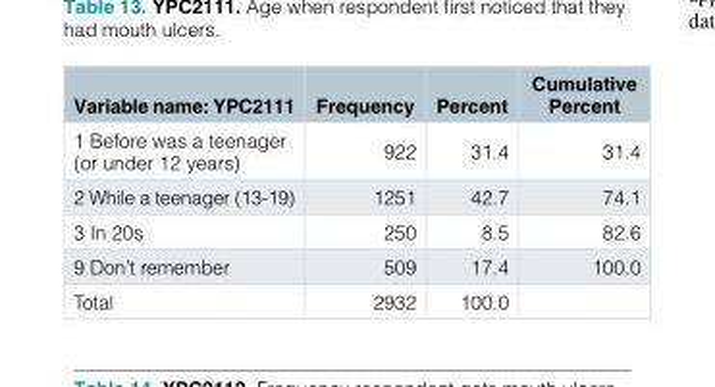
<table><thead><tr><td>Variable name: YPC2111</td><td>Frequency</td><td>Percent</td><td>Cumulative Percent</td></tr></thead><tbody><tr><td>1 Before was a teenager (or under 12 years)</td><td>922</td><td>31.4</td><td>31.4</td></tr><tr><td>2 While a teenager (13-19)</td><td>1251</td><td>42.7</td><td>74.1</td></tr><tr><td>3 In 20s</td><td>250</td><td>8.5</td><td>82.6</td></tr><tr><td>9 Don’t remember</td><td>509</td><td>17.4</td><td>100.0</td></tr><tr><td>Total</td><td>2932</td><td>100.0</td><td></td></tr></tbody></table>